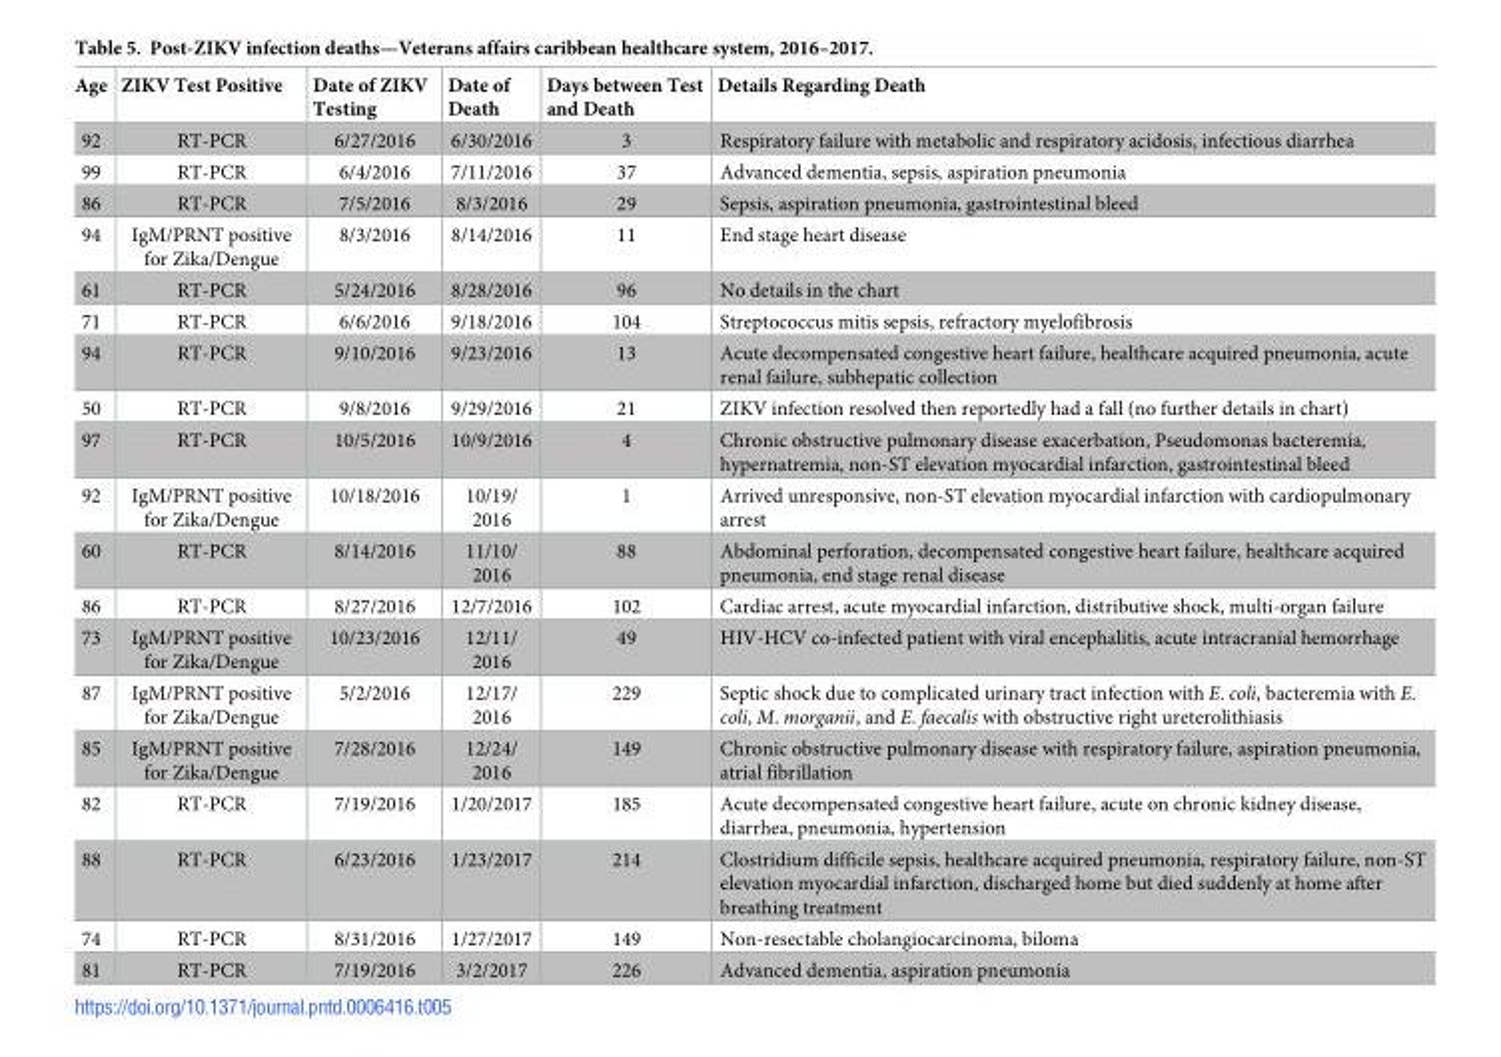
<table><thead><tr><td>Age</td><td>ZIKV Test Positive</td><td>Date of ZIKV Testing</td><td>Date of Death</td><td>Days between Test and Death</td><td>Details Regarding Death</td></tr></thead><tbody><tr><td>92</td><td>RT-PCR</td><td>6/27/2016</td><td>6/30/2016</td><td>3</td><td>Respiratory failure with metabolic and respiratory acidosis, infectious diarrhea</td></tr><tr><td>99</td><td>RT-PCR</td><td>6/4/2016</td><td>7/11/2016</td><td>37</td><td>Advanced dementia, sepsis, aspiration pneumonia</td></tr><tr><td>86</td><td>RT-PCR</td><td>7/5/2016</td><td>8/3/2016</td><td>29</td><td>Sepsis, aspiration pneumonia, gastrointestinal bleed</td></tr><tr><td>94</td><td>IgM/PRNT positive for Zika/Dengue</td><td>8/3/2016</td><td>8/14/2016</td><td>11</td><td>End stage heart disease</td></tr><tr><td>61</td><td>RT-PCR</td><td>5/24/2016</td><td>8/28/2016</td><td>96</td><td>No details in the chart</td></tr><tr><td>71</td><td>RT-PCR</td><td>6/6/2016</td><td>9/18/2016</td><td>104</td><td>Streptococcus mitis sepsis, refractory myelofibrosis</td></tr><tr><td>94</td><td>RT-PCR</td><td>9/10/2016</td><td>9/23/2016</td><td>13</td><td>Acute decompensated congestive heart failure, healthcare acquired pneumonia, acute renal failure, subhepatic collection</td></tr><tr><td>50</td><td>RT-PCR</td><td>9/8/2016</td><td>9/29/2016</td><td>21</td><td>ZIKV infection resolved then reportedly had a fall (no further details in chart)</td></tr><tr><td>97</td><td>RT-PCR</td><td>10/5/2016</td><td>10/9/2016</td><td>4</td><td>Chronic obstructive pulmonary disease exacerbation, Pseudomonas bacteremia, hypernatremia, non-ST elevation myocardial infarction, gastrointestinal bleed</td></tr><tr><td>92</td><td>IgM/PRNT positive for Zika/Dengue</td><td>10/18/2016</td><td>10/19/ 2016</td><td>1</td><td>Arrived unresponsive, non-ST elevation myocardial infarction with cardiopulmonary arrest</td></tr><tr><td>60</td><td>RT-PCR</td><td>8/14/2016</td><td>11/10/ 2016</td><td>88</td><td>Abdominal perforation, decompensated congestive heart failure, healthcare acquired pneumonia, end stage renal disease</td></tr><tr><td>86</td><td>RT-PCR</td><td>8/27/2016</td><td>12/7/2016</td><td>102</td><td>Cardiac arrest, acute myocardial infarction, distributive shock, multi-organ failure</td></tr><tr><td>73</td><td>IgM/PRNT positive for Zika/Dengue</td><td>10/23/2016</td><td>12/11/ 2016</td><td>49</td><td>HIV-HCV co-infected patient with viral encephalitis, acute intracranial hemorrhage</td></tr><tr><td>87</td><td>IgM/PRNT positive for Zika/Dengue</td><td>5/2/2016</td><td>12/17/ 2016</td><td>229</td><td>Septic shock due to complicated urinary tract infection with E. coli, bacteremia with E. coli, M. morganii, and E. faecalis with obstructive right ureterolithiasis</td></tr><tr><td>85</td><td>IgM/PRNT positive for Zika/Dengue</td><td>7/28/2016</td><td>12/24/ 2016</td><td>149</td><td>Chronic obstructive pulmonary disease with respiratory failure, aspiration pneumonia, atrial fibrillation</td></tr><tr><td>82</td><td>RT-PCR</td><td>7/19/2016</td><td>1/20/2017</td><td>185</td><td>Acute decompensated congestive heart failure, acute on chronic kidney disease, diarrhea, pneumonia, hypertension</td></tr><tr><td>88</td><td>RT-PCR</td><td>6/23/2016</td><td>1/23/2017</td><td>214</td><td>Clostridium difficile sepsis, healthcare acquired pneumonia, respiratory failure, non-ST elevation myocardial infarction, discharged home but died suddenly at home after breathing treatment</td></tr><tr><td>74</td><td>RT-PCR</td><td>8/31/2016</td><td>1/27/2017</td><td>149</td><td>Non-resectable cholangiocarcinoma, biloma</td></tr><tr><td>81</td><td>RT-PCR</td><td>7/19/2016</td><td>3/2/2017</td><td>226</td><td>Advanced dementia, aspiration pneumonia</td></tr></tbody></table>